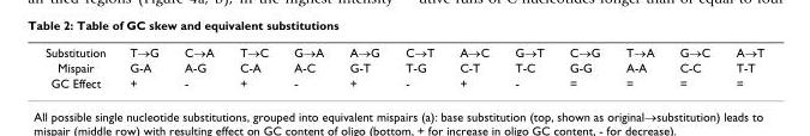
<table><tbody><tr><td>Substitution</td><td>T→G</td><td>C→A</td><td>T→C</td><td>G→A</td><td>A→G</td><td>C→T</td><td>A→C</td><td>G→T</td><td>C→G</td><td>T→A</td><td>G→C</td><td>A→T</td></tr><tr><td>Mispair</td><td>G-A</td><td>A-G</td><td>C-A</td><td>A-C</td><td>G-T</td><td>T-G</td><td>C-T</td><td>T-C</td><td>G-G</td><td>A-A</td><td>C-C</td><td>T-T</td></tr><tr><td>GC Effect</td><td>+</td><td>-</td><td>+</td><td>-</td><td>+</td><td>-</td><td>+</td><td>-</td><td>=</td><td>=</td><td>=</td><td>=</td></tr></tbody></table>